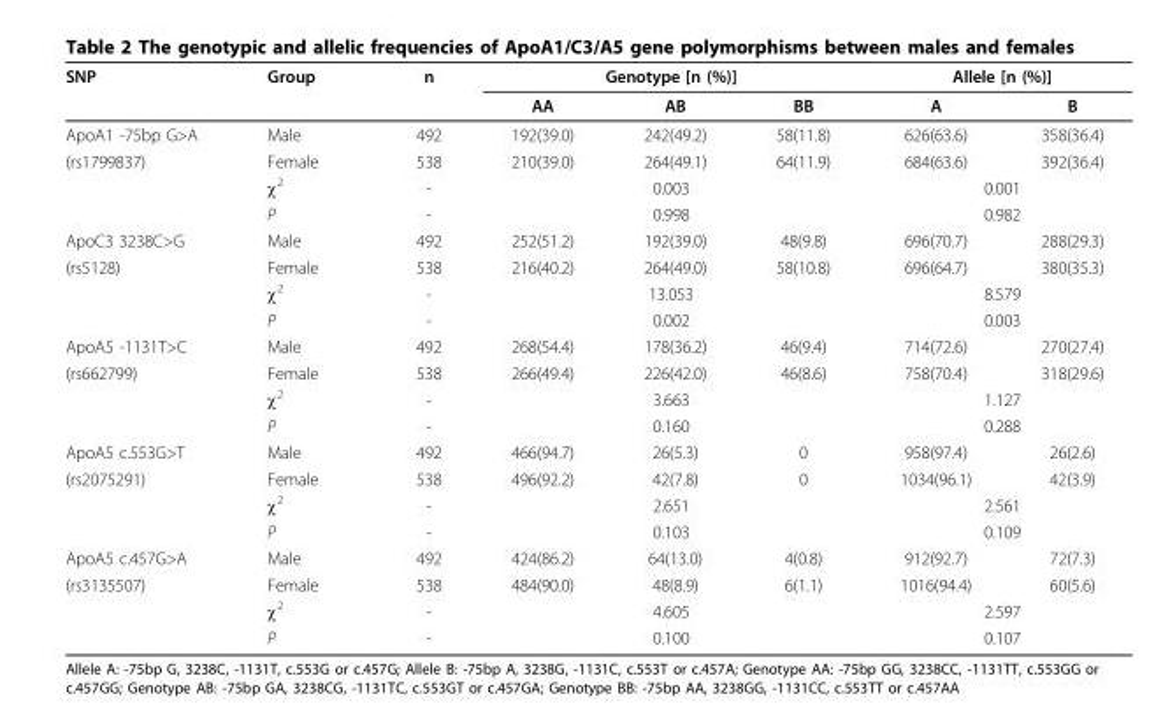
<table><thead><tr><td rowspan="2">SNP</td><td rowspan="2">Group</td><td rowspan="2">n</td><td colspan="3">Genotype [n (%)]</td><td colspan="2">Allele [n (%)]</td></tr><tr><td>AA</td><td>AB</td><td>BB</td><td>A</td><td>B</td></tr></thead><tbody><tr><td>ApoA1 -75bp G&gt;A</td><td>Male</td><td>492</td><td>192(39.0)</td><td>242(49.2)</td><td>58(11.8)</td><td>626(63.6)</td><td>358(36.4)</td></tr><tr><td rowspan="3">(rs1799837)</td><td>Female</td><td>538</td><td>210(39.0)</td><td>264(49.1)</td><td>64(11.9)</td><td>684(63.6)</td><td>392(36.4)</td></tr><tr><td>χ<sup>2</sup></td><td>-</td><td colspan="3">0.003</td><td colspan="2">0.001</td></tr><tr><td>P</td><td>-</td><td colspan="3">0.998</td><td colspan="2">0.982</td></tr><tr><td>ApoC3 3238C&gt;G</td><td>Male</td><td>492</td><td>252(51.2)</td><td>192(39.0)</td><td>48(9.8)</td><td>696(70.7)</td><td>288(29.3)</td></tr><tr><td rowspan="3">(rs5128)</td><td>Female</td><td>538</td><td>216(40.2)</td><td>264(49.0)</td><td>58(10.8)</td><td>696(64.7)</td><td>380(35.3)</td></tr><tr><td>χ<sup>2</sup></td><td>-</td><td colspan="3">13.053</td><td colspan="2">8.579</td></tr><tr><td>P</td><td>-</td><td colspan="3">0.002</td><td colspan="2">0.003</td></tr><tr><td>ApoA5 -1131T&gt;C</td><td>Male</td><td>492</td><td>268(54.4)</td><td>178(36.2)</td><td>46(9.4)</td><td>714(72.6)</td><td>270(27.4)</td></tr><tr><td rowspan="3">(rs662799)</td><td>Female</td><td>538</td><td>266(49.4)</td><td>226(42.0)</td><td>46(8.6)</td><td>758(70.4)</td><td>318(29.6)</td></tr><tr><td>χ<sup>2</sup></td><td>-</td><td colspan="3">3.663</td><td colspan="2">1.127</td></tr><tr><td>P</td><td>-</td><td colspan="3">0.160</td><td colspan="2">0.288</td></tr><tr><td>ApoA5 c.553G&gt;T</td><td>Male</td><td>492</td><td>466(94.7)</td><td>26(5.3)</td><td>0</td><td>958(97.4)</td><td>26(2.6)</td></tr><tr><td rowspan="3">(rs2075291)</td><td>Female</td><td>538</td><td>496(92.2)</td><td>42(7.8)</td><td>0</td><td>1034(96.1)</td><td>42(3.9)</td></tr><tr><td>χ<sup>2</sup></td><td>-</td><td colspan="3">2.651</td><td colspan="2">2.561</td></tr><tr><td>P</td><td>-</td><td colspan="3">0.103</td><td colspan="2">0.109</td></tr><tr><td>ApoA5 c.457G&gt;A</td><td>Male</td><td>492</td><td>424(86.2)</td><td>64(13.0)</td><td>4(0.8)</td><td>912(92.7)</td><td>72(7.3)</td></tr><tr><td rowspan="3">(rs3135507)</td><td>Female</td><td>538</td><td>484(90.0)</td><td>48(8.9)</td><td>6(1.1)</td><td>1016(94.4)</td><td>60(5.6)</td></tr><tr><td>χ<sup>2</sup></td><td>-</td><td colspan="3">4.605</td><td colspan="2">2.597</td></tr><tr><td>P</td><td>-</td><td colspan="3">0.100</td><td colspan="2">0.107</td></tr></tbody></table>